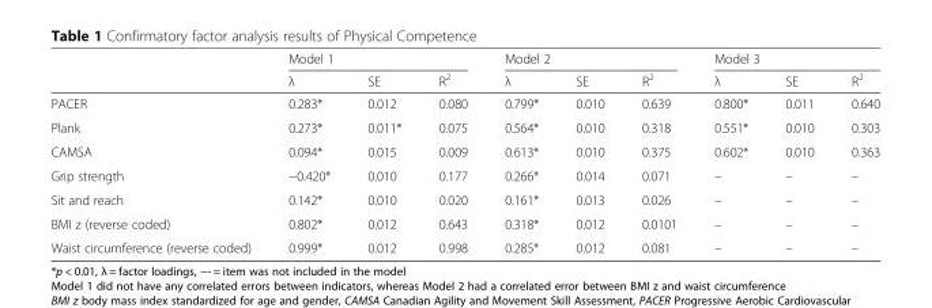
<table><thead><tr><td rowspan="2"></td><td colspan="3">Model 1</td><td colspan="3">Model 2</td><td colspan="3">Model 3</td></tr><tr><td>λ</td><td>SE</td><td>R<sup>2</sup></td><td>λ</td><td>SE</td><td>R<sup>2</sup></td><td>λ</td><td>SE</td><td>R<sup>2</sup></td></tr></thead><tbody><tr><td>PACER</td><td>0.283*</td><td>0.012</td><td>0.080</td><td>0.799*</td><td>0.010</td><td>0.639</td><td>0.800*</td><td>0.011</td><td>0.640</td></tr><tr><td>Plank</td><td>0.273*</td><td>0.011*</td><td>0.075</td><td>0.564*</td><td>0.010</td><td>0.318</td><td>0.551*</td><td>0.010</td><td>0.303</td></tr><tr><td>CAMSA</td><td>0.094*</td><td>0.015</td><td>0.009</td><td>0.613*</td><td>0.010</td><td>0.375</td><td>0.602*</td><td>0.010</td><td>0.363</td></tr><tr><td>Grip strength</td><td>−0.420*</td><td>0.010</td><td>0.177</td><td>0.266*</td><td>0.014</td><td>0.071</td><td>–</td><td>–</td><td>–</td></tr><tr><td>Sit and reach</td><td>0.142*</td><td>0.010</td><td>0.020</td><td>0.161*</td><td>0.013</td><td>0.026</td><td>–</td><td>–</td><td>–</td></tr><tr><td>BMI z (reverse coded)</td><td>0.802*</td><td>0.012</td><td>0.643</td><td>0.318*</td><td>0.012</td><td>0.0101</td><td>–</td><td>–</td><td>–</td></tr><tr><td>Waist circumference (reverse coded)</td><td>0.999*</td><td>0.012</td><td>0.998</td><td>0.285*</td><td>0.012</td><td>0.081</td><td>–</td><td>–</td><td>–</td></tr></tbody></table>